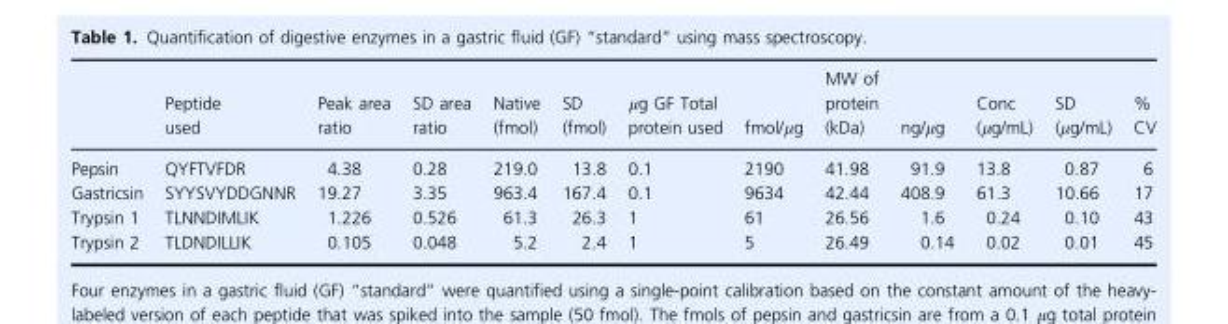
<table><thead><tr><td></td><td>Peptide used</td><td>Peak area ratio</td><td>SD area ratio</td><td>Native (fmol)</td><td>SD (fmol)</td><td>μg GF Total protein used</td><td>fmol/μg</td><td>MW of protein (kDa)</td><td>ng/μg</td><td>Conc (μg/mL)</td><td>SD (μg/mL)</td><td>% CV</td></tr></thead><tbody><tr><td>Pepsin</td><td>QYFTVFDR</td><td>4.38</td><td>0.28</td><td>219.0</td><td>13.8</td><td>0.1</td><td>2190</td><td>41.98</td><td>91.9</td><td>13.8</td><td>0.87</td><td>6</td></tr><tr><td>Gastricsin</td><td>SYYSVYDDGNNR</td><td>19.27</td><td>3.35</td><td>963.4</td><td>167.4</td><td>0.1</td><td>9634</td><td>42.44</td><td>408.9</td><td>61.3</td><td>10.66</td><td>17</td></tr><tr><td>Trypsin 1</td><td>TLNNDIMLIK</td><td>1.226</td><td>0.526</td><td>61.3</td><td>26.3</td><td>1</td><td>61</td><td>26.56</td><td>1.6</td><td>0.24</td><td>0.10</td><td>43</td></tr><tr><td>Trypsin 2</td><td>TLDNDILLIK</td><td>0.105</td><td>0.048</td><td>5.2</td><td>2.4</td><td>1</td><td>5</td><td>26.49</td><td>0.14</td><td>0.02</td><td>0.01</td><td>45</td></tr></tbody></table>